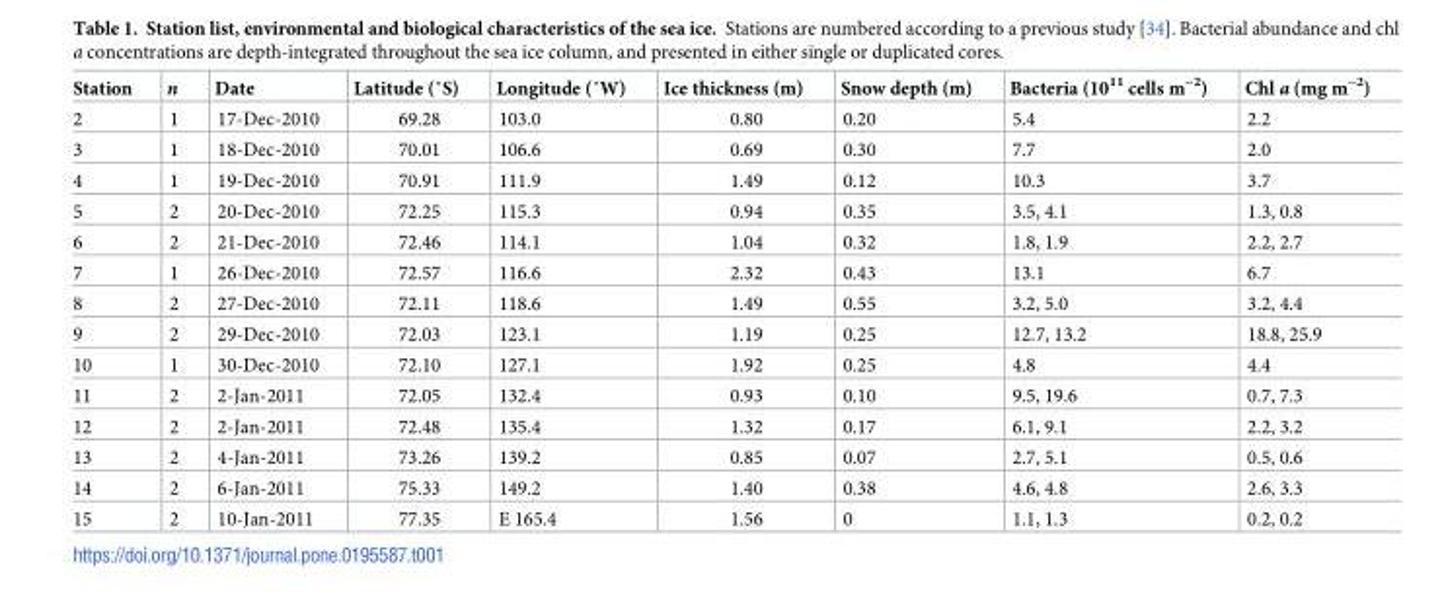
<table><thead><tr><td>Station</td><td>n</td><td>Date</td><td>Latitude (˚S)</td><td>Longitude (˚W)</td><td>Ice thickness (m)</td><td>Snow depth (m)</td><td>Bacteria (10<sup>11</sup> cells m<sup>−2</sup>)</td><td>Chl a (mg m<sup>−2</sup>)</td></tr></thead><tbody><tr><td>2</td><td>1</td><td>17-Dec-2010</td><td>69.28</td><td>103.0</td><td>0.80</td><td>0.20</td><td>5.4</td><td>2.2</td></tr><tr><td>3</td><td>1</td><td>18-Dec-2010</td><td>70.01</td><td>106.6</td><td>0.69</td><td>0.30</td><td>7.7</td><td>2.0</td></tr><tr><td>4</td><td>1</td><td>19-Dec-2010</td><td>70.91</td><td>111.9</td><td>1.49</td><td>0.12</td><td>10.3</td><td>3.7</td></tr><tr><td>5</td><td>2</td><td>20-Dec-2010</td><td>72.25</td><td>115.3</td><td>0.94</td><td>0.35</td><td>3.5, 4.1</td><td>1.3, 0.8</td></tr><tr><td>6</td><td>2</td><td>21-Dec-2010</td><td>72.46</td><td>114.1</td><td>1.04</td><td>0.32</td><td>1.8, 1.9</td><td>2.2, 2.7</td></tr><tr><td>7</td><td>1</td><td>26-Dec-2010</td><td>72.57</td><td>116.6</td><td>2.32</td><td>0.43</td><td>13.1</td><td>6.7</td></tr><tr><td>8</td><td>2</td><td>27-Dec-2010</td><td>72.11</td><td>118.6</td><td>1.49</td><td>0.55</td><td>3.2, 5.0</td><td>3.2, 4.4</td></tr><tr><td>9</td><td>2</td><td>29-Dec-2010</td><td>72.03</td><td>123.1</td><td>1.19</td><td>0.25</td><td>12.7, 13.2</td><td>18.8, 25.9</td></tr><tr><td>10</td><td>1</td><td>30-Dec-2010</td><td>72.10</td><td>127.1</td><td>1.92</td><td>0.25</td><td>4.8</td><td>4.4</td></tr><tr><td>11</td><td>2</td><td>2-Jan-2011</td><td>72.05</td><td>132.4</td><td>0.93</td><td>0.10</td><td>9.5, 19.6</td><td>0.7, 7.3</td></tr><tr><td>12</td><td>2</td><td>2-Jan-2011</td><td>72.48</td><td>135.4</td><td>1.32</td><td>0.17</td><td>6.1, 9.1</td><td>2.2, 3.2</td></tr><tr><td>13</td><td>2</td><td>4-Jan-2011</td><td>73.26</td><td>139.2</td><td>0.85</td><td>0.07</td><td>2.7, 5.1</td><td>0.5, 0.6</td></tr><tr><td>14</td><td>2</td><td>6-Jan-2011</td><td>75.33</td><td>149.2</td><td>1.40</td><td>0.38</td><td>4.6, 4.8</td><td>2.6, 3.3</td></tr><tr><td>15</td><td>2</td><td>10-Jan-2011</td><td>77.35</td><td>E 165.4</td><td>1.56</td><td>0</td><td>1.1, 1.3</td><td>0.2, 0.2</td></tr></tbody></table>